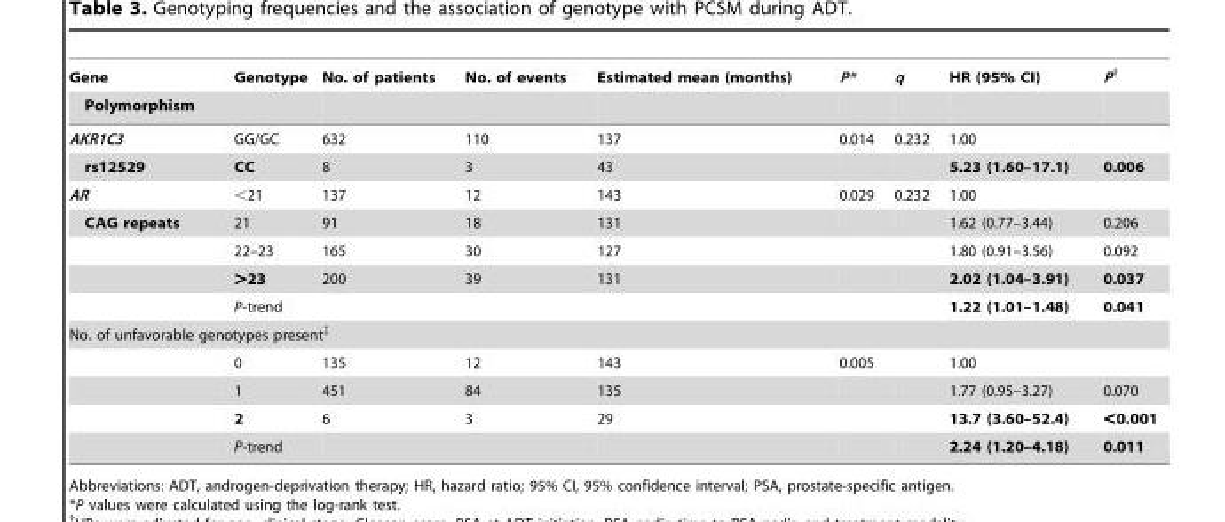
<table><thead><tr><td rowspan="2">Gene Polymorphism</td><td rowspan="2">Genotype</td><td rowspan="2">No. of patients</td><td rowspan="2">No. of events</td><td rowspan="2">Estimated mean (months)</td><td rowspan="2">P*</td><td rowspan="2">q</td><td rowspan="2">HR (95% CI)</td><td rowspan="2">P†</td></tr><tr></tr></thead><tbody><tr><td>AKR1C3</td><td>GG/GC</td><td>632</td><td>110</td><td>137</td><td>0.014</td><td>0.232</td><td>1.00</td><td></td></tr><tr><td>rs12529</td><td>CC</td><td>8</td><td>3</td><td>43</td><td></td><td></td><td>5.23 (1.60–17.1)</td><td>0.006</td></tr><tr><td>AR</td><td>&lt;21</td><td>137</td><td>12</td><td>143</td><td>0.029</td><td>0.232</td><td>1.00</td><td></td></tr><tr><td rowspan="4">CAG repeats</td><td>21</td><td>91</td><td>18</td><td>131</td><td></td><td></td><td>1.62 (0.77–3.44)</td><td>0.206</td></tr><tr><td>22–23</td><td>165</td><td>30</td><td>127</td><td></td><td></td><td>1.80 (0.91–3.56)</td><td>0.092</td></tr><tr><td>&gt;23</td><td>200</td><td>39</td><td>131</td><td></td><td></td><td>2.02 (1.04–3.91)</td><td>0.037</td></tr><tr><td>P-trend</td><td></td><td></td><td></td><td></td><td></td><td>1.22 (1.01–1.48)</td><td>0.041</td></tr><tr><td colspan="9">No. of unfavorable genotypes present‡</td></tr><tr><td></td><td>0</td><td>135</td><td>12</td><td>143</td><td>0.005</td><td></td><td>1.00</td><td></td></tr><tr><td></td><td>1</td><td>451</td><td>84</td><td>135</td><td></td><td></td><td>1.77 (0.95–3.27)</td><td>0.070</td></tr><tr><td></td><td>2</td><td>6</td><td>3</td><td>29</td><td></td><td></td><td>13.7 (3.60–52.4)</td><td>&lt;0.001</td></tr><tr><td></td><td>P-trend</td><td></td><td></td><td></td><td></td><td></td><td>2.24 (1.20–4.18)</td><td>0.011</td></tr></tbody></table>